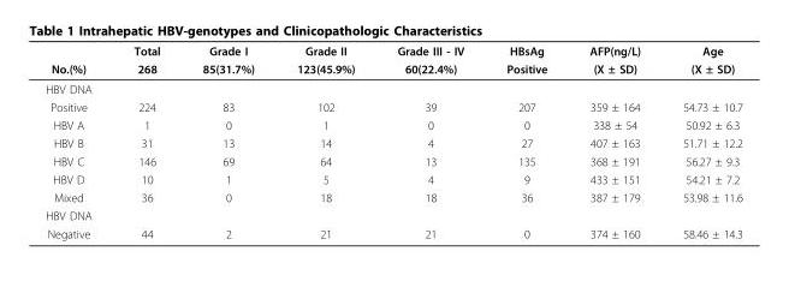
<table><thead><tr><td rowspan="2">No.(%)</td><td rowspan="2">Total 268</td><td rowspan="2">Grade I 85(31.7%)</td><td rowspan="2">Grade II 123(45.9%)</td><td rowspan="2">Grade III - IV 60(22.4%)</td><td rowspan="2">HBsAg Positive</td><td rowspan="2">AFP(ng/L) (X ± SD)</td><td rowspan="2">Age (X ± SD)</td></tr><tr></tr></thead><tbody><tr><td colspan="8">HBV DNA</td></tr><tr><td>Positive</td><td>224</td><td>83</td><td>102</td><td>39</td><td>207</td><td>359 ± 164</td><td>54.73 ± 10.7</td></tr><tr><td>HBV A</td><td>1</td><td>0</td><td>1</td><td>0</td><td>0</td><td>338 ± 54</td><td>50.92 ± 6.3</td></tr><tr><td>HBV B</td><td>31</td><td>13</td><td>14</td><td>4</td><td>27</td><td>407 ± 163</td><td>51.71 ± 12.2</td></tr><tr><td>HBV C</td><td>146</td><td>69</td><td>64</td><td>13</td><td>135</td><td>368 ± 191</td><td>56.27 ± 9.3</td></tr><tr><td>HBV D</td><td>10</td><td>1</td><td>5</td><td>4</td><td>9</td><td>433 ± 151</td><td>54.21 ± 7.2</td></tr><tr><td>Mixed</td><td>36</td><td>0</td><td>18</td><td>18</td><td>36</td><td>387 ± 179</td><td>53.98 ± 11.6</td></tr><tr><td colspan="8">HBV DNA</td></tr><tr><td>Negative</td><td>44</td><td>2</td><td>21</td><td>21</td><td>0</td><td>374 ± 160</td><td>58.46 ± 14.3</td></tr></tbody></table>